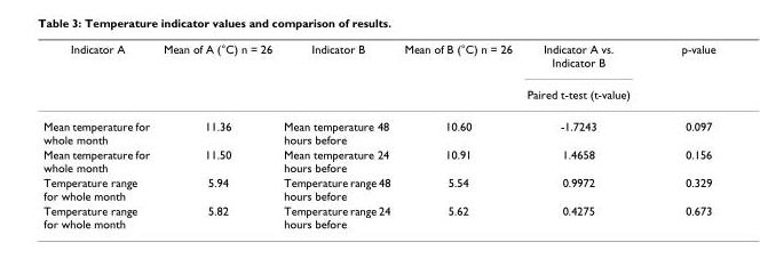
<table><thead><tr><td rowspan="2">Indicator A</td><td rowspan="2">Mean of A (°C) n = 26</td><td rowspan="2">Indicator B</td><td rowspan="2">Mean of B (°C) n = 26</td><td rowspan="2">Indicator A vs. Indicator B Paired t-test (t-value)</td><td rowspan="2">p-value</td></tr><tr></tr></thead><tbody><tr><td>Mean temperature for whole month</td><td>11.36</td><td>Mean temperature 48 hours before</td><td>10.60</td><td>-1.7243</td><td>0.097</td></tr><tr><td>Mean temperature for whole month</td><td>11.50</td><td>Mean temperature 24 hours before</td><td>10.91</td><td>1.4658</td><td>0.156</td></tr><tr><td>Temperature range for whole month</td><td>5.94</td><td>Temperature range 48 hours before</td><td>5.54</td><td>0.9972</td><td>0.329</td></tr><tr><td>Temperature range for whole month</td><td>5.82</td><td>Temperature range 24 hours before</td><td>5.62</td><td>0.4275</td><td>0.673</td></tr></tbody></table>